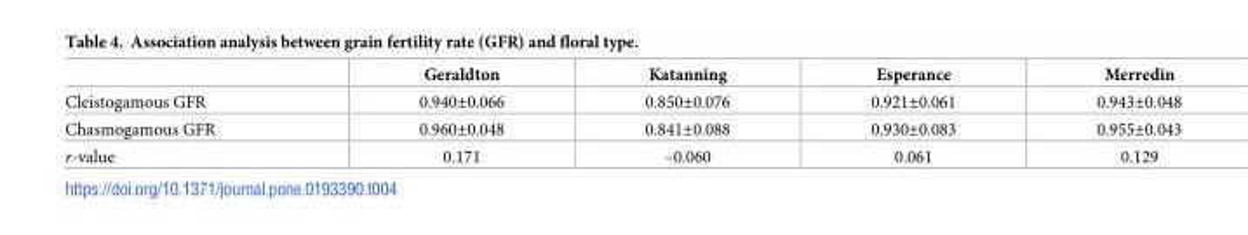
<table><thead><tr><td></td><td>Geraldton</td><td>Katanning</td><td>Esperance</td><td>Merredin</td></tr></thead><tbody><tr><td>Cleistogamous GFR</td><td>0.940±0.066</td><td>0.850±0.076</td><td>0.921±0.061</td><td>0.943±0.048</td></tr><tr><td>Chasmogamous GFR</td><td>0.960±0.048</td><td>0.841±0.088</td><td>0.930±0.083</td><td>0.955±0.043</td></tr><tr><td>r-value</td><td>0.171</td><td>–0.060</td><td>0.061</td><td>0.129</td></tr></tbody></table>